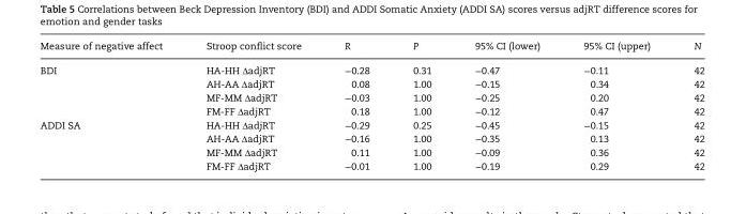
<table><thead><tr><td>Measure of negative affect</td><td>Stroop conflict score</td><td>R</td><td>P</td><td>95% CI (lower)</td><td>95% CI (upper)</td><td>N</td></tr></thead><tbody><tr><td rowspan="4">BDI</td><td>HA-HH ΔadjRT</td><td>−0.28</td><td>0.31</td><td>−0.47</td><td>−0.11</td><td>42</td></tr><tr><td>AH-AA ΔadjRT</td><td>0.08</td><td>1.00</td><td>−0.15</td><td>0.34</td><td>42</td></tr><tr><td>MF-MM ΔadjRT</td><td>−0.03</td><td>1.00</td><td>−0.25</td><td>0.20</td><td>42</td></tr><tr><td>FM-FF ΔadjRT</td><td>0.18</td><td>1.00</td><td>−0.12</td><td>0.47</td><td>42</td></tr><tr><td rowspan="4">ADDI SA</td><td>HA-HH ΔadjRT</td><td>−0.29</td><td>0.25</td><td>−0.45</td><td>−0.15</td><td>42</td></tr><tr><td>AH-AA ΔadjRT</td><td>−0.16</td><td>1.00</td><td>−0.35</td><td>0.13</td><td>42</td></tr><tr><td>MF-MM ΔadjRT</td><td>0.11</td><td>1.00</td><td>−0.09</td><td>0.36</td><td>42</td></tr><tr><td>FM-FF ΔadjRT</td><td>−0.01</td><td>1.00</td><td>−0.19</td><td>0.29</td><td>42</td></tr></tbody></table>